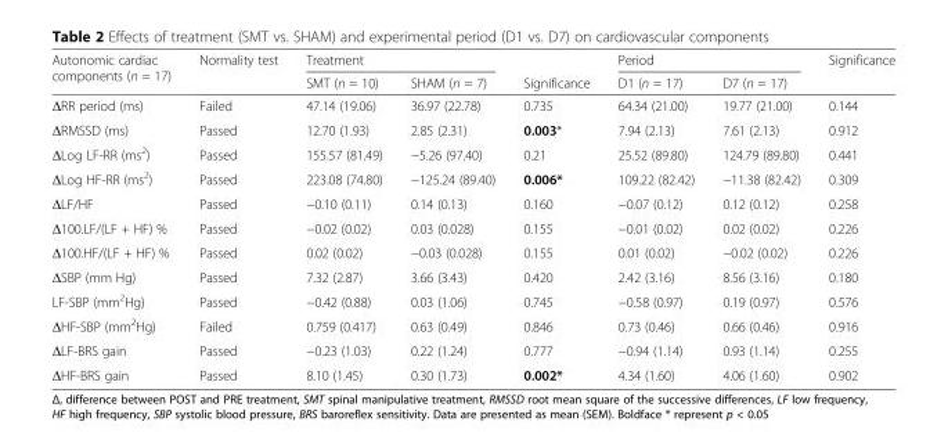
<table><thead><tr><td rowspan="2">Autonomic cardiac components (n = 17)</td><td rowspan="2">Normality test</td><td colspan="2">Treatment</td><td rowspan="2">Significance</td><td colspan="2">Period</td><td rowspan="2">Significance</td></tr><tr><td>SMT (n = 10)</td><td>SHAM (n = 7)</td><td>D1 (n = 17)</td><td>D7 (n = 17)</td></tr></thead><tbody><tr><td>ΔRR period (ms)</td><td>Failed</td><td>47.14 (19.06)</td><td>36.97 (22.78)</td><td>0.735</td><td>64.34 (21.00)</td><td>19.77 (21.00)</td><td>0.144</td></tr><tr><td>ΔRMSSD (ms)</td><td>Passed</td><td>12.70 (1.93)</td><td>2.85 (2.31)</td><td>0.003*</td><td>7.94 (2.13)</td><td>7.61 (2.13)</td><td>0.912</td></tr><tr><td>ΔLog LF-RR (ms<sup>2</sup>)</td><td>Passed</td><td>155.57 (81.49)</td><td>−5.26 (97.40)</td><td>0.21</td><td>25.52 (89.80)</td><td>124.79 (89.80)</td><td>0.441</td></tr><tr><td>ΔLog HF-RR (ms<sup>2</sup>)</td><td>Passed</td><td>223.08 (74.80)</td><td>−125.24 (89.40)</td><td>0.006*</td><td>109.22 (82.42)</td><td>−11.38 (82.42)</td><td>0.309</td></tr><tr><td>ΔLF/HF</td><td>Passed</td><td>−0.10 (0.11)</td><td>0.14 (0.13)</td><td>0.160</td><td>−0.07 (0.12)</td><td>0.12 (0.12)</td><td>0.258</td></tr><tr><td>Δ100.LF/(LF + HF) %</td><td>Passed</td><td>−0.02 (0.02)</td><td>0.03 (0.028)</td><td>0.155</td><td>−0.01 (0.02)</td><td>0.02 (0.02)</td><td>0.226</td></tr><tr><td>Δ100.HF/(LF + HF) %</td><td>Passed</td><td>0.02 (0.02)</td><td>−0.03 (0.028)</td><td>0.155</td><td>0.01 (0.02)</td><td>−0.02 (0.02)</td><td>0.226</td></tr><tr><td>ΔSBP (mm Hg)</td><td>Passed</td><td>7.32 (2.87)</td><td>3.66 (3.43)</td><td>0.420</td><td>2.42 (3.16)</td><td>8.56 (3.16)</td><td>0.180</td></tr><tr><td>LF-SBP (mm<sup>2</sup>Hg)</td><td>Passed</td><td>−0.42 (0.88)</td><td>0.03 (1.06)</td><td>0.745</td><td>−0.58 (0.97)</td><td>0.19 (0.97)</td><td>0.576</td></tr><tr><td>ΔHF-SBP (mm<sup>2</sup>Hg)</td><td>Failed</td><td>0.759 (0.417)</td><td>0.63 (0.49)</td><td>0.846</td><td>0.73 (0.46)</td><td>0.66 (0.46)</td><td>0.916</td></tr><tr><td>ΔLF-BRS gain</td><td>Passed</td><td>−0.23 (1.03)</td><td>0.22 (1.24)</td><td>0.777</td><td>−0.94 (1.14)</td><td>0.93 (1.14)</td><td>0.255</td></tr><tr><td>ΔHF-BRS gain</td><td>Passed</td><td>8.10 (1.45)</td><td>0.30 (1.73)</td><td>0.002*</td><td>4.34 (1.60)</td><td>4.06 (1.60)</td><td>0.902</td></tr></tbody></table>